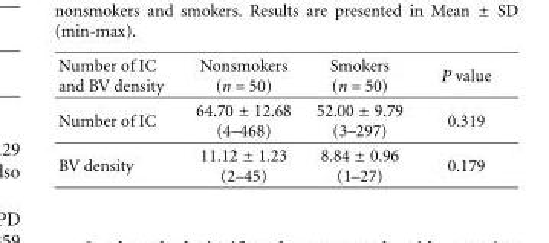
<table><thead><tr><td>Number of IC and BV density</td><td>Nonsmokers (n = 50)</td><td>Smokers (n = 50)</td><td>P value</td></tr></thead><tbody><tr><td>Number of IC</td><td>64.70 ± 12.68 (4–468)</td><td>52.00 ± 9.79 (3–297)</td><td>0.319</td></tr><tr><td>BV density</td><td>11.12 ± 1.23 (2–45)</td><td>8.84 ± 0.96 (1–27)</td><td>0.179</td></tr></tbody></table>